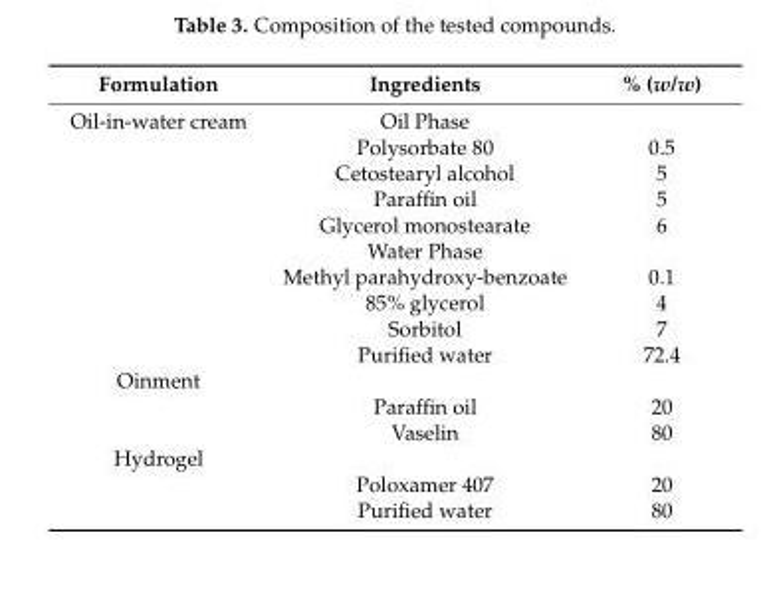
<table><thead><tr><td>Formulation</td><td>Ingredients</td><td>% (w/w)</td></tr></thead><tbody><tr><td rowspan="10">Oil-in-water cream</td><td>Oil Phase</td><td></td></tr><tr><td>Polysorbate 80</td><td>0.5</td></tr><tr><td>Cetostearyl alcohol</td><td>5</td></tr><tr><td>Paraffin oil</td><td>5</td></tr><tr><td>Glycerol monostearate</td><td>6</td></tr><tr><td>Water Phase</td><td></td></tr><tr><td>Methyl parahydroxy-benzoate</td><td>0.1</td></tr><tr><td>85% glycerol</td><td>4</td></tr><tr><td>Sorbitol</td><td>7</td></tr><tr><td>Purified water</td><td>72.4</td></tr><tr><td colspan="3">Oinment</td></tr><tr><td></td><td>Paraffin oil</td><td>20</td></tr><tr><td></td><td>Vaselin</td><td>80</td></tr><tr><td colspan="3">Hydrogel</td></tr><tr><td></td><td>Poloxamer 407</td><td>20</td></tr><tr><td></td><td>Purified water</td><td>80</td></tr></tbody></table>